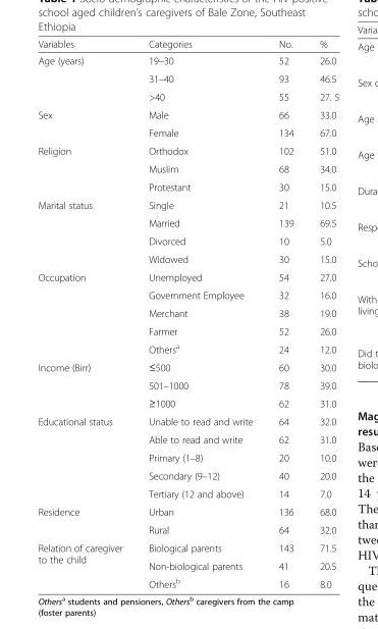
<table><thead><tr><td>Variables</td><td>Categories</td><td>No.</td><td>%</td></tr></thead><tbody><tr><td rowspan="3">Age (years)</td><td>19–30</td><td>52</td><td>26.0</td></tr><tr><td>31–40</td><td>93</td><td>46.5</td></tr><tr><td>&gt;40</td><td>55</td><td>27. 5</td></tr><tr><td rowspan="2">Sex</td><td>Male</td><td>66</td><td>33.0</td></tr><tr><td>Female</td><td>134</td><td>67.0</td></tr><tr><td rowspan="3">Religion</td><td>Orthodox</td><td>102</td><td>51.0</td></tr><tr><td>Muslim</td><td>68</td><td>34.0</td></tr><tr><td>Protestant</td><td>30</td><td>15.0</td></tr><tr><td rowspan="4">Marital status</td><td>Single</td><td>21</td><td>10.5</td></tr><tr><td>Married</td><td>139</td><td>69.5</td></tr><tr><td>Divorced</td><td>10</td><td>5.0</td></tr><tr><td>Widowed</td><td>30</td><td>15.0</td></tr><tr><td rowspan="5">Occupation</td><td>Unemployed</td><td>54</td><td>27.0</td></tr><tr><td>Government Employee</td><td>32</td><td>16.0</td></tr><tr><td>Merchant</td><td>38</td><td>19.0</td></tr><tr><td>Farmer</td><td>52</td><td>26.0</td></tr><tr><td>Others<sup>a</sup></td><td>24</td><td>12.0</td></tr><tr><td rowspan="3">Income (Birr)</td><td>≤500</td><td>60</td><td>30.0</td></tr><tr><td>501–1000</td><td>78</td><td>39.0</td></tr><tr><td>≥1000</td><td>62</td><td>31.0</td></tr><tr><td rowspan="5">Educational status</td><td>Unable to read and write</td><td>64</td><td>32.0</td></tr><tr><td>Able to read and write</td><td>62</td><td>31.0</td></tr><tr><td>Primary (1–8)</td><td>20</td><td>10.0</td></tr><tr><td>Secondary (9–12)</td><td>40</td><td>20.0</td></tr><tr><td>Tertiary (12 and above)</td><td>14</td><td>7.0</td></tr><tr><td rowspan="2">Residence</td><td>Urban</td><td>136</td><td>68.0</td></tr><tr><td>Rural</td><td>64</td><td>32.0</td></tr><tr><td rowspan="3">Relation of caregiver to the child</td><td>Biological parents</td><td>143</td><td>71.5</td></tr><tr><td>Non-biological parents</td><td>41</td><td>20.5</td></tr><tr><td>Others<sup>b</sup></td><td>16</td><td>8.0</td></tr></tbody></table>